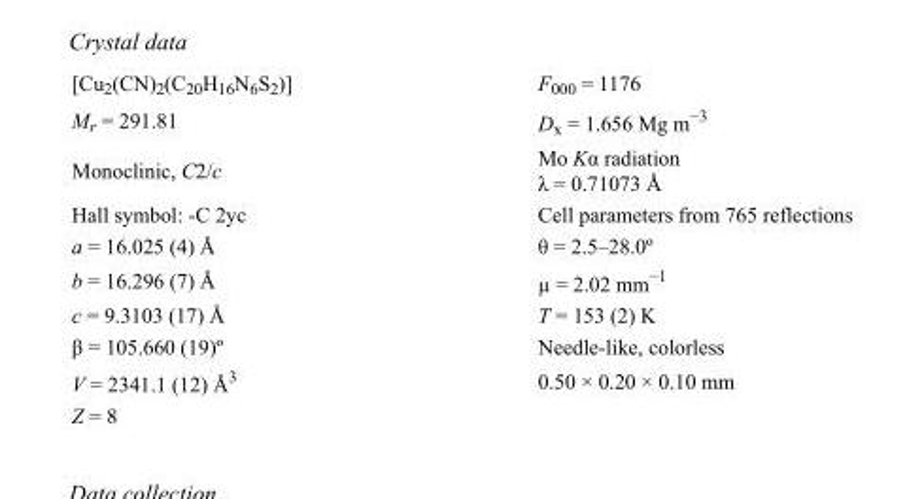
<table><tbody><tr><td>[Cu<sub>2</sub>(CN)<sub>2</sub>(C<sub>20</sub>H<sub>16</sub>N<sub>6</sub>S<sub>2</sub>)]</td><td>F<sub>000</sub> = 1176</td></tr><tr><td>M<sub>r</sub> = 291.81</td><td>D<sub>x</sub> = 1.656 Mg m<sup>−3</sup></td></tr><tr><td>Monoclinic, C2/c</td><td>Mo Kα radiation λ = 0.71073 Å</td></tr><tr><td>Hall symbol: -C 2yc</td><td>Cell parameters from 765 reflections</td></tr><tr><td>a = 16.025 (4) Å</td><td>θ = 2.5–28.0º</td></tr><tr><td>b = 16.296 (7) Å</td><td>µ = 2.02 mm<sup>−1</sup></td></tr><tr><td>c = 9.3103 (17) Å</td><td>T = 153 (2) K</td></tr><tr><td>β = 105.660 (19)º</td><td>Needle-like, colorless</td></tr><tr><td>V = 2341.1 (12) Å<sup>3</sup></td><td>0.50 × 0.20 × 0.10 mm</td></tr><tr><td>Z = 8</td><td></td></tr></tbody></table>